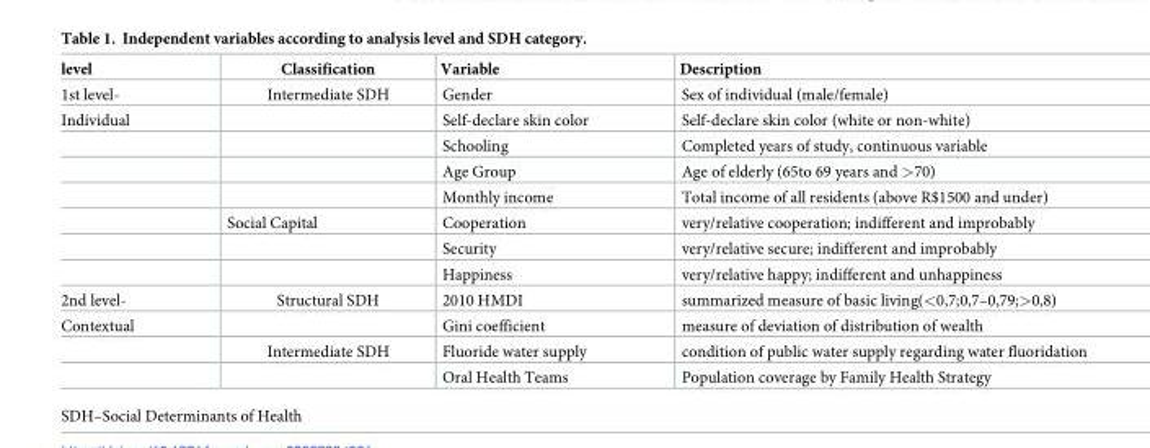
<table><thead><tr><td>level</td><td>Classification</td><td>Variable</td><td>Description</td></tr></thead><tbody><tr><td>1st level-</td><td>Intermediate SDH</td><td>Gender</td><td>Sex of individual (male/female)</td></tr><tr><td rowspan="7">Individual</td><td></td><td>Self-declare skin color</td><td>Self-declare skin color (white or non-white)</td></tr><tr><td></td><td>Schooling</td><td>Completed years of study, continuous variable</td></tr><tr><td></td><td>Age Group</td><td>Age of elderly (65to 69 years and &gt;70)</td></tr><tr><td></td><td>Monthly income</td><td>Total income of all residents (above R$1500 and under)</td></tr><tr><td>Social Capital</td><td>Cooperation</td><td>very/relative cooperation; indifferent and improbably</td></tr><tr><td></td><td>Security</td><td>very/relative secure; indifferent and improbably</td></tr><tr><td></td><td>Happiness</td><td>very/relative happy; indifferent and unhappiness</td></tr><tr><td>2nd level-</td><td>Structural SDH</td><td>2010 HMDI</td><td>summarized measure of basic living(&lt;0,7;0,7–0,79;&gt;0,8)</td></tr><tr><td rowspan="3">Contextual</td><td></td><td>Gini coefficient</td><td>measure of deviation of distribution of wealth</td></tr><tr><td>Intermediate SDH</td><td>Fluoride water supply</td><td>condition of public water supply regarding water fluoridation</td></tr><tr><td></td><td>Oral Health Teams</td><td>Population coverage by Family Health Strategy</td></tr></tbody></table>